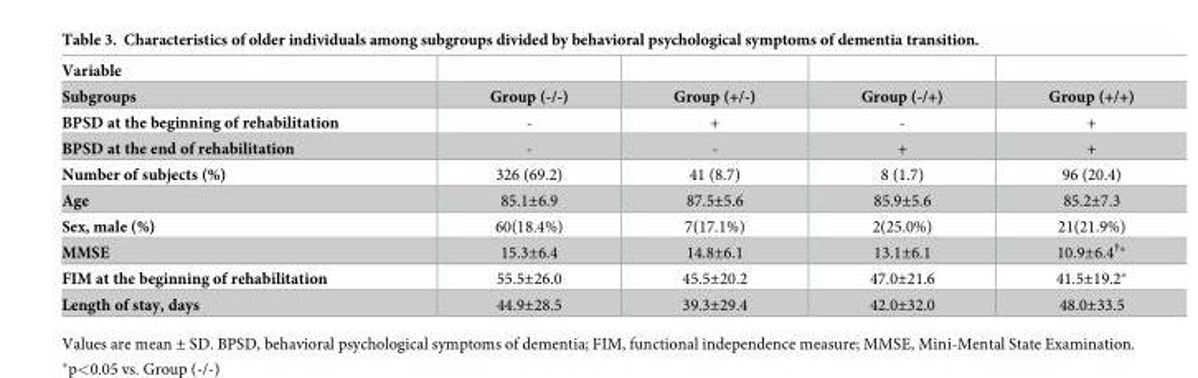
<table><thead><tr><td rowspan="2">Variable Subgroups</td><td rowspan="2">Group (-/-)</td><td rowspan="2">Group (+/-)</td><td rowspan="2">Group (-/+)</td><td rowspan="2">Group (+/+)</td></tr><tr></tr></thead><tbody><tr><td>BPSD at the beginning of rehabilitation</td><td>-</td><td>+</td><td>-</td><td>+</td></tr><tr><td>BPSD at the end of rehabilitation</td><td>-</td><td>-</td><td>+</td><td>+</td></tr><tr><td>Number of subjects (%)</td><td>326 (69.2)</td><td>41 (8.7)</td><td>8 (1.7)</td><td>96 (20.4)</td></tr><tr><td>Age</td><td>85.1±6.9</td><td>87.5±5.6</td><td>85.9±5.6</td><td>85.2±7.3</td></tr><tr><td>Sex, male (%)</td><td>60(18.4%)</td><td>7(17.1%)</td><td>2(25.0%)</td><td>21(21.9%)</td></tr><tr><td>MMSE</td><td>15.3±6.4</td><td>14.8±6.1</td><td>13.1±6.1</td><td>10.9±6.4<sup>†</sup>*</td></tr><tr><td>FIM at the beginning of rehabilitation</td><td>55.5±26.0</td><td>45.5±20.2</td><td>47.0±21.6</td><td>41.5±19.2*</td></tr><tr><td>Length of stay, days</td><td>44.9±28.5</td><td>39.3±29.4</td><td>42.0±32.0</td><td>48.0±33.5</td></tr></tbody></table>